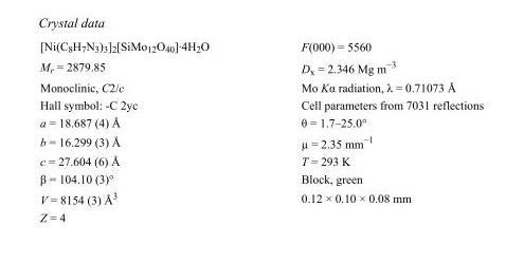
<table><tbody><tr><td>[Ni(C<sub>8</sub>H<sub>7</sub>N<sub>3</sub>)<sub>3</sub>]<sub>2</sub>[SiMo<sub>12</sub>O<sub>40</sub>]·4H<sub>2</sub>O</td><td>F(000) = 5560</td></tr><tr><td>M<sub>r</sub> = 2879.85</td><td>D<sub>x</sub> = 2.346 Mg m<sup>−3</sup></td></tr><tr><td>Monoclinic, C2/c</td><td>Mo Kα radiation, λ = 0.71073 Å</td></tr><tr><td>Hall symbol: -C 2yc</td><td>Cell parameters from 7031 reflections</td></tr><tr><td>a = 18.687 (4) Å</td><td>θ = 1.7–25.0°</td></tr><tr><td>b = 16.299 (3) Å</td><td>µ = 2.35 mm<sup>−1</sup></td></tr><tr><td>c = 27.604 (6) Å</td><td>T = 293 K</td></tr><tr><td>β = 104.10 (3)°</td><td>Block, green</td></tr><tr><td>V = 8154 (3) Å<sup>3</sup></td><td>0.12 × 0.10 × 0.08 mm</td></tr><tr><td>Z = 4</td><td></td></tr></tbody></table>